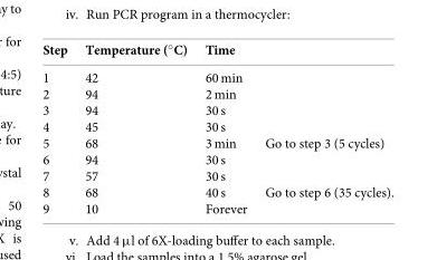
<table><thead><tr><td>Step</td><td>Temperature (◦C)</td><td>Time</td><td></td></tr></thead><tbody><tr><td>1</td><td>42</td><td>60 min</td><td></td></tr><tr><td>2</td><td>94</td><td>2 min</td><td></td></tr><tr><td>3</td><td>94</td><td>30 s</td><td></td></tr><tr><td>4</td><td>45</td><td>30 s</td><td></td></tr><tr><td>5</td><td>68</td><td>3 min</td><td>Go to step 3 (5 cycles)</td></tr><tr><td>6</td><td>94</td><td>30 s</td><td></td></tr><tr><td>7</td><td>57</td><td>30 s</td><td></td></tr><tr><td>8</td><td>68</td><td>40 s</td><td>Go to step 6 (35 cycles).</td></tr><tr><td>9</td><td>10</td><td>Forever</td><td></td></tr></tbody></table>